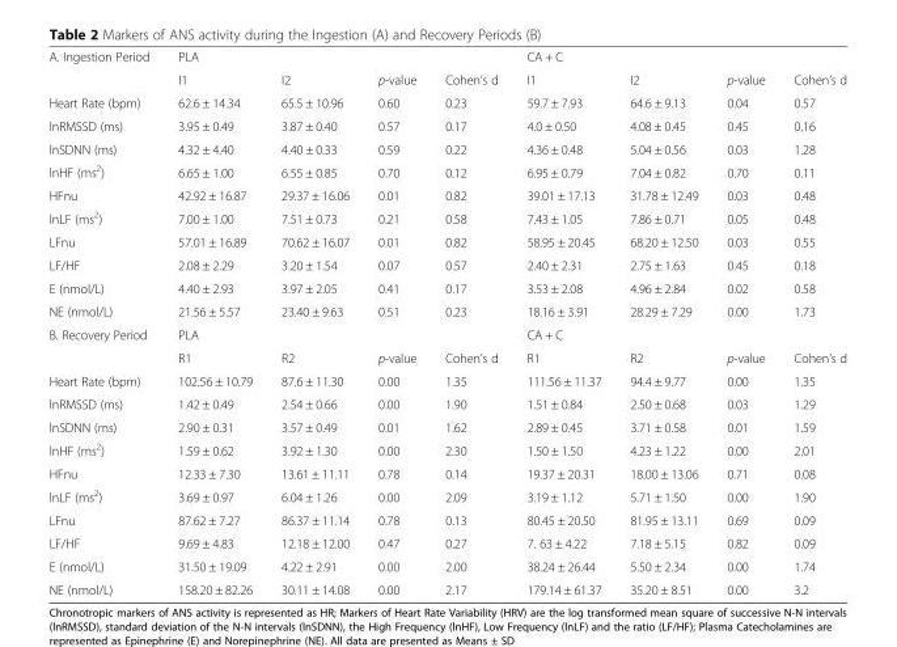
<table><tbody><tr><td rowspan="2">A. Ingestion Period</td><td colspan="4">PLA</td><td colspan="4">CA + C</td></tr><tr><td>I1</td><td>I2</td><td>p-value</td><td>Cohen’s d</td><td>I1</td><td>I2</td><td>p-value</td><td>Cohen’s d</td></tr><tr><td>Heart Rate (bpm)</td><td>62.6 ± 14.34</td><td>65.5 ± 10.96</td><td>0.60</td><td>0.23</td><td>59.7 ± 7.93</td><td>64.6 ± 9.13</td><td>0.04</td><td>0.57</td></tr><tr><td>lnRMSSD (ms)</td><td>3.95 ± 0.49</td><td>3.87 ± 0.40</td><td>0.57</td><td>0.17</td><td>4.0 ± 0.50</td><td>4.08 ± 0.45</td><td>0.45</td><td>0.16</td></tr><tr><td>lnSDNN (ms)</td><td>4.32 ± 4.40</td><td>4.40 ± 0.33</td><td>0.59</td><td>0.22</td><td>4.36 ± 0.48</td><td>5.04 ± 0.56</td><td>0.03</td><td>1.28</td></tr><tr><td>lnHF (ms<sup>2</sup>)</td><td>6.65 ± 1.00</td><td>6.55 ± 0.85</td><td>0.70</td><td>0.12</td><td>6.95 ± 0.79</td><td>7.04 ± 0.82</td><td>0.70</td><td>0.11</td></tr><tr><td>HFnu</td><td>42.92 ± 16.87</td><td>29.37 ± 16.06</td><td>0.01</td><td>0.82</td><td>39.01 ± 17.13</td><td>31.78 ± 12.49</td><td>0.03</td><td>0.48</td></tr><tr><td>lnLF (ms<sup>2</sup>)</td><td>7.00 ± 1.00</td><td>7.51 ± 0.73</td><td>0.21</td><td>0.58</td><td>7.43 ± 1.05</td><td>7.86 ± 0.71</td><td>0.05</td><td>0.48</td></tr><tr><td>LFnu</td><td>57.01 ± 16.89</td><td>70.62 ± 16.07</td><td>0.01</td><td>0.82</td><td>58.95 ± 20.45</td><td>68.20 ± 12.50</td><td>0.03</td><td>0.55</td></tr><tr><td>LF/HF</td><td>2.08 ± 2.29</td><td>3.20 ± 1.54</td><td>0.07</td><td>0.57</td><td>2.40 ± 2.31</td><td>2.75 ± 1.63</td><td>0.45</td><td>0.18</td></tr><tr><td>E (nmol/L)</td><td>4.40 ± 2.93</td><td>3.97 ± 2.05</td><td>0.41</td><td>0.17</td><td>3.53 ± 2.08</td><td>4.96 ± 2.84</td><td>0.02</td><td>0.58</td></tr><tr><td>NE (nmol/L)</td><td>21.56 ± 5.57</td><td>23.40 ± 9.63</td><td>0.51</td><td>0.23</td><td>18.16 ± 3.91</td><td>28.29 ± 7.29</td><td>0.00</td><td>1.73</td></tr><tr><td rowspan="2">B. Recovery Period</td><td colspan="4">PLA</td><td colspan="4">CA + C</td></tr><tr><td>R1</td><td>R2</td><td>p-value</td><td>Cohen’s d</td><td>R1</td><td>R2</td><td>p-value</td><td>Cohen’s d</td></tr><tr><td>Heart Rate (bpm)</td><td>102.56 ± 10.79</td><td>87.6 ± 11.30</td><td>0.00</td><td>1.35</td><td>111.56 ± 11.37</td><td>94.4 ± 9.77</td><td>0.00</td><td>1.35</td></tr><tr><td>lnRMSSD (ms)</td><td>1.42 ± 0.49</td><td>2.54 ± 0.66</td><td>0.00</td><td>1.90</td><td>1.51 ± 0.84</td><td>2.50 ± 0.68</td><td>0.03</td><td>1.29</td></tr><tr><td>lnSDNN (ms)</td><td>2.90 ± 0.31</td><td>3.57 ± 0.49</td><td>0.01</td><td>1.62</td><td>2.89 ± 0.45</td><td>3.71 ± 0.58</td><td>0.01</td><td>1.59</td></tr><tr><td>lnHF (ms<sup>2</sup>)</td><td>1.59 ± 0.62</td><td>3.92 ± 1.30</td><td>0.00</td><td>2.30</td><td>1.50 ± 1.50</td><td>4.23 ± 1.22</td><td>0.00</td><td>2.01</td></tr><tr><td>HFnu</td><td>12.33 ± 7.30</td><td>13.61 ± 11.11</td><td>0.78</td><td>0.14</td><td>19.37 ± 20.31</td><td>18.00 ± 13.06</td><td>0.71</td><td>0.08</td></tr><tr><td>lnLF (ms<sup>2</sup>)</td><td>3.69 ± 0.97</td><td>6.04 ± 1.26</td><td>0.00</td><td>2.09</td><td>3.19 ± 1.12</td><td>5.71 ± 1.50</td><td>0.00</td><td>1.90</td></tr><tr><td>LFnu</td><td>87.62 ± 7.27</td><td>86.37 ± 11.14</td><td>0.78</td><td>0.13</td><td>80.45 ± 20.50</td><td>81.95 ± 13.11</td><td>0.69</td><td>0.09</td></tr><tr><td>LF/HF</td><td>9.69 ± 4.83</td><td>12.18 ± 12.00</td><td>0.47</td><td>0.27</td><td>7. 63 ± 4.22</td><td>7.18 ± 5.15</td><td>0.82</td><td>0.09</td></tr><tr><td>E (nmol/L)</td><td>31.50 ± 19.09</td><td>4.22 ± 2.91</td><td>0.00</td><td>2.00</td><td>38.24 ± 26.44</td><td>5.50 ± 2.34</td><td>0.00</td><td>1.74</td></tr><tr><td>NE (nmol/L)</td><td>158.20 ± 82.26</td><td>30.11 ± 14.08</td><td>0.00</td><td>2.17</td><td>179.14 ± 61.37</td><td>35.20 ± 8.51</td><td>0.00</td><td>3.2</td></tr></tbody></table>